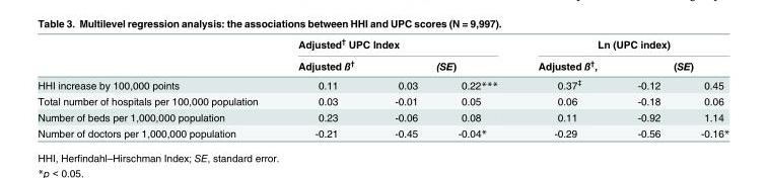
<table><thead><tr><td rowspan="3">HHI increase by 100,000 points</td><td colspan="3">Adjusted<sup>†</sup> UPC Index</td><td colspan="3">Ln (UPC index)</td></tr><tr><td rowspan="2">Adjusted ß<sup>†</sup> 0.11</td><td colspan="2">(SE)</td><td rowspan="2">Adjusted ß<sup>†</sup>, 0.37<sup>‡</sup></td><td colspan="2">(SE)</td></tr><tr><td>0.03</td><td>0.22***</td><td>-0.12</td><td>0.45</td></tr></thead><tbody><tr><td>Total number of hospitals per 100,000 population</td><td>0.03</td><td>-0.01</td><td>0.05</td><td>0.06</td><td>-0.18</td><td>0.06</td></tr><tr><td>Number of beds per 1,000,000 population</td><td>0.23</td><td>-0.06</td><td>0.08</td><td>0.11</td><td>-0.92</td><td>1.14</td></tr><tr><td>Number of doctors per 1,000,000 population</td><td>-0.21</td><td>-0.45</td><td>-0.04*</td><td>-0.29</td><td>-0.56</td><td>-0.16*</td></tr></tbody></table>